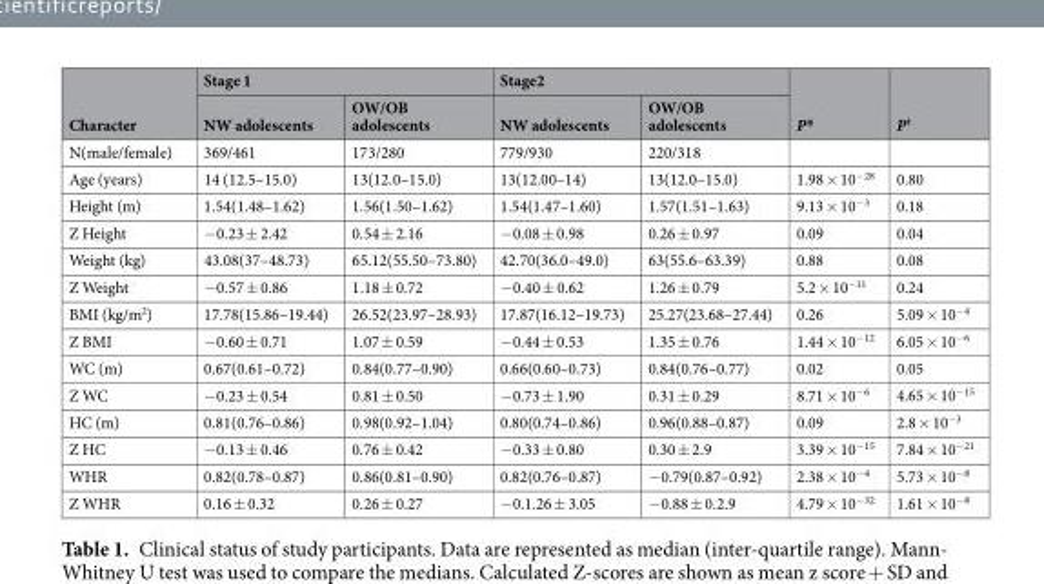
<table><thead><tr><td rowspan="2">Character</td><td colspan="2">Stage 1</td><td colspan="2">Stage2</td><td rowspan="2">P*</td><td rowspan="2">P<sup>†</sup></td></tr><tr><td>NW adolescents</td><td>OW/OB adolescents</td><td>NW adolescents</td><td>OW/OB adolescents</td></tr></thead><tbody><tr><td>N(male/female)</td><td>369/461</td><td>173/280</td><td>779/930</td><td>220/318</td><td></td><td></td></tr><tr><td>Age (years)</td><td>14 (12.5–15.0)</td><td>13(12.0–15.0)</td><td>13(12.00–14)</td><td>13(12.0–15.0)</td><td>1.98 × 10<sup>−28</sup></td><td>0.80</td></tr><tr><td>Height (m)</td><td>1.54(1.48–1.62)</td><td>1.56(1.50–1.62)</td><td>1.54(1.47–1.60)</td><td>1.57(1.51–1.63)</td><td>9.13 × 10<sup>−3</sup></td><td>0.18</td></tr><tr><td>Z Height</td><td>−0.23 ± 2.42</td><td>0.54 ± 2.16</td><td>−0.08 ± 0.98</td><td>0.26 ± 0.97</td><td>0.09</td><td>0.04</td></tr><tr><td>Weight (kg)</td><td>43.08(37–48.73)</td><td>65.12(55.50–73.80)</td><td>42.70(36.0–49.0)</td><td>63(55.6–63.39)</td><td>0.88</td><td>0.08</td></tr><tr><td>Z Weight</td><td>−0.57 ± 0.86</td><td>1.18 ± 0.72</td><td>−0.40 ± 0.62</td><td>1.26 ± 0.79</td><td>5.2 × 10<sup>−11</sup></td><td>0.24</td></tr><tr><td>BMI (kg/m<sup>2</sup>)</td><td>17.78(15.86–19.44)</td><td>26.52(23.97–28.93)</td><td>17.87(16.12–19.73)</td><td>25.27(23.68–27.44)</td><td>0.26</td><td>5.09 × 10<sup>−4</sup></td></tr><tr><td>Z BMI</td><td>−0.60 ± 0.71</td><td>1.07 ± 0.59</td><td>−0.44 ± 0.53</td><td>1.35 ± 0.76</td><td>1.44 × 10<sup>−12</sup></td><td>6.05 × 10<sup>−6</sup></td></tr><tr><td>WC (m)</td><td>0.67(0.61–0.72)</td><td>0.84(0.77–0.90)</td><td>0.66(0.60–0.73)</td><td>0.84(0.76–0.77)</td><td>0.02</td><td>0.05</td></tr><tr><td>Z WC</td><td>−0.23 ± 0.54</td><td>0.81 ± 0.50</td><td>−0.73 ± 1.90</td><td>0.31 ± 0.29</td><td>8.71 × 10<sup>−6</sup></td><td>4.65 × 10<sup>−15</sup></td></tr><tr><td>HC (m)</td><td>0.81(0.76–0.86)</td><td>0.98(0.92–1.04)</td><td>0.80(0.74–0.86)</td><td>0.96(0.88–0.87)</td><td>0.09</td><td>2.8 × 10<sup>−3</sup></td></tr><tr><td>Z HC</td><td>−0.13 ± 0.46</td><td>0.76 ± 0.42</td><td>−0.33 ± 0.80</td><td>0.30 ± 2.9</td><td>3.39 × 10<sup>−15</sup></td><td>7.84 × 10<sup>−21</sup></td></tr><tr><td>WHR</td><td>0.82(0.78–0.87)</td><td>0.86(0.81–0.90)</td><td>0.82(0.76–0.87)</td><td>−0.79(0.87–0.92)</td><td>2.38 × 10<sup>−4</sup></td><td>5.73 × 10<sup>−8</sup></td></tr><tr><td>Z WHR</td><td>0.16 ± 0.32</td><td>0.26 ± 0.27</td><td>−0.1.26 ± 3.05</td><td>−0.88 ± 0.2.9</td><td>4.79 × 10<sup>−32</sup></td><td>1.61 × 10<sup>−8</sup></td></tr></tbody></table>